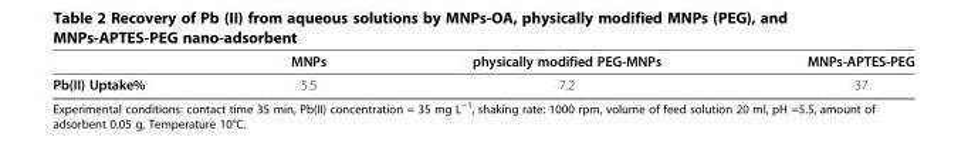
<table><thead><tr><td></td><td>MNPs</td><td>physically modified PEG-MNPs</td><td>MNPs-APTES-PEG</td></tr></thead><tbody><tr><td>Pb(II) Uptake%</td><td>5.5</td><td>7.2</td><td>37</td></tr></tbody></table>